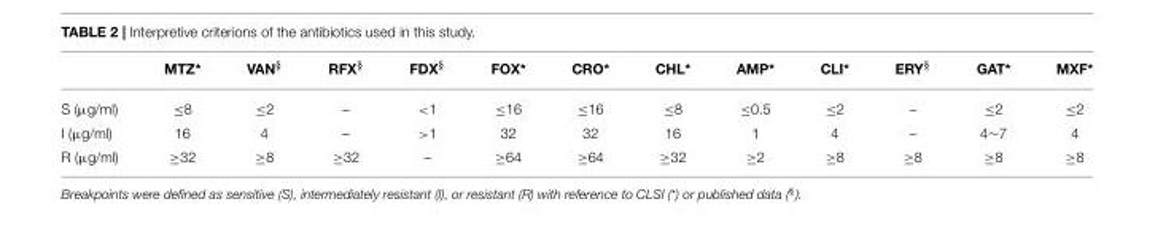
<table><thead><tr><td></td><td>MTZ*</td><td>VAN<sup>§</sup></td><td>RFX<sup>§</sup></td><td>FDX<sup>§</sup></td><td>FOX*</td><td>CRO*</td><td>CHL*</td><td>AMP*</td><td>CLI*</td><td>ERY<sup>§</sup></td><td>GAT*</td><td>MXF*</td></tr></thead><tbody><tr><td>S (µg/ml)</td><td>≤8</td><td>≤2</td><td>–</td><td>&lt;1</td><td>≤16</td><td>≤16</td><td>≤8</td><td>≤0.5</td><td>≤2</td><td>–</td><td>≤2</td><td>≤2</td></tr><tr><td>I (µg/ml)</td><td>16</td><td>4</td><td>–</td><td>&gt;1</td><td>32</td><td>32</td><td>16</td><td>1</td><td>4</td><td>–</td><td>4∼7</td><td>4</td></tr><tr><td>R (µg/ml)</td><td>≥32</td><td>≥8</td><td>≥32</td><td>–</td><td>≥64</td><td>≥64</td><td>≥32</td><td>≥2</td><td>≥8</td><td>≥8</td><td>≥8</td><td>≥8</td></tr></tbody></table>